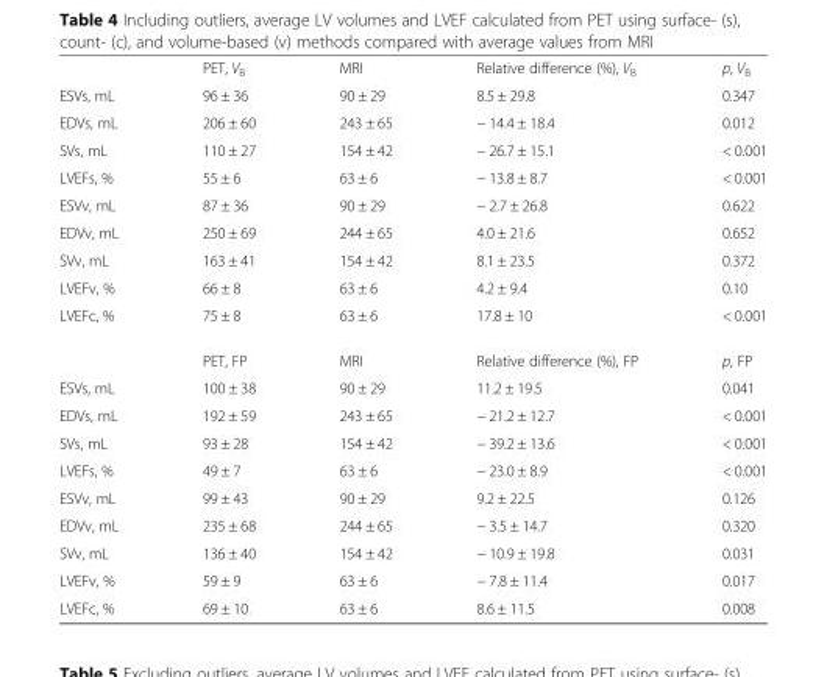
<table><thead><tr><td></td><td>PET, V<sub>B</sub></td><td>MRI</td><td>Relative difference (%), V<sub>B</sub></td><td>p, V<sub>B</sub></td></tr></thead><tbody><tr><td>ESVs, mL</td><td>96 ± 36</td><td>90 ± 29</td><td>8.5 ± 29.8</td><td>0.347</td></tr><tr><td>EDVs, mL</td><td>206 ± 60</td><td>243 ± 65</td><td>− 14.4 ± 18.4</td><td>0.012</td></tr><tr><td>SVs, mL</td><td>110 ± 27</td><td>154 ± 42</td><td>− 26.7 ± 15.1</td><td>&lt; 0.001</td></tr><tr><td>LVEFs, %</td><td>55 ± 6</td><td>63 ± 6</td><td>− 13.8 ± 8.7</td><td>&lt; 0.001</td></tr><tr><td>ESVv, mL</td><td>87 ± 36</td><td>90 ± 29</td><td>− 2.7 ± 26.8</td><td>0.622</td></tr><tr><td>EDVv, mL</td><td>250 ± 69</td><td>244 ± 65</td><td>4.0 ± 21.6</td><td>0.652</td></tr><tr><td>SVv, mL</td><td>163 ± 41</td><td>154 ± 42</td><td>8.1 ± 23.5</td><td>0.372</td></tr><tr><td>LVEFv, %</td><td>66 ± 8</td><td>63 ± 6</td><td>4.2 ± 9.4</td><td>0.10</td></tr><tr><td rowspan="2">LVEFc, %</td><td>75 ± 8</td><td>63 ± 6</td><td>17.8 ± 10</td><td>&lt; 0.001</td></tr><tr><td>PET, FP</td><td>MRI</td><td>Relative difference (%), FP</td><td>p, FP</td></tr><tr><td>ESVs, mL</td><td>100 ± 38</td><td>90 ± 29</td><td>11.2 ± 19.5</td><td>0.041</td></tr><tr><td>EDVs, mL</td><td>192 ± 59</td><td>243 ± 65</td><td>− 21.2 ± 12.7</td><td>&lt; 0.001</td></tr><tr><td>SVs, mL</td><td>93 ± 28</td><td>154 ± 42</td><td>− 39.2 ± 13.6</td><td>&lt; 0.001</td></tr><tr><td>LVEFs, %</td><td>49 ± 7</td><td>63 ± 6</td><td>− 23.0 ± 8.9</td><td>&lt; 0.001</td></tr><tr><td>ESVv, mL</td><td>99 ± 43</td><td>90 ± 29</td><td>9.2 ± 22.5</td><td>0.126</td></tr><tr><td>EDVv, mL</td><td>235 ± 68</td><td>244 ± 65</td><td>− 3.5 ± 14.7</td><td>0.320</td></tr><tr><td>SVv, mL</td><td>136 ± 40</td><td>154 ± 42</td><td>− 10.9 ± 19.8</td><td>0.031</td></tr><tr><td>LVEFv, %</td><td>59 ± 9</td><td>63 ± 6</td><td>− 7.8 ± 11.4</td><td>0.017</td></tr><tr><td>LVEFc, %</td><td>69 ± 10</td><td>63 ± 6</td><td>8.6 ± 11.5</td><td>0.008</td></tr></tbody></table>